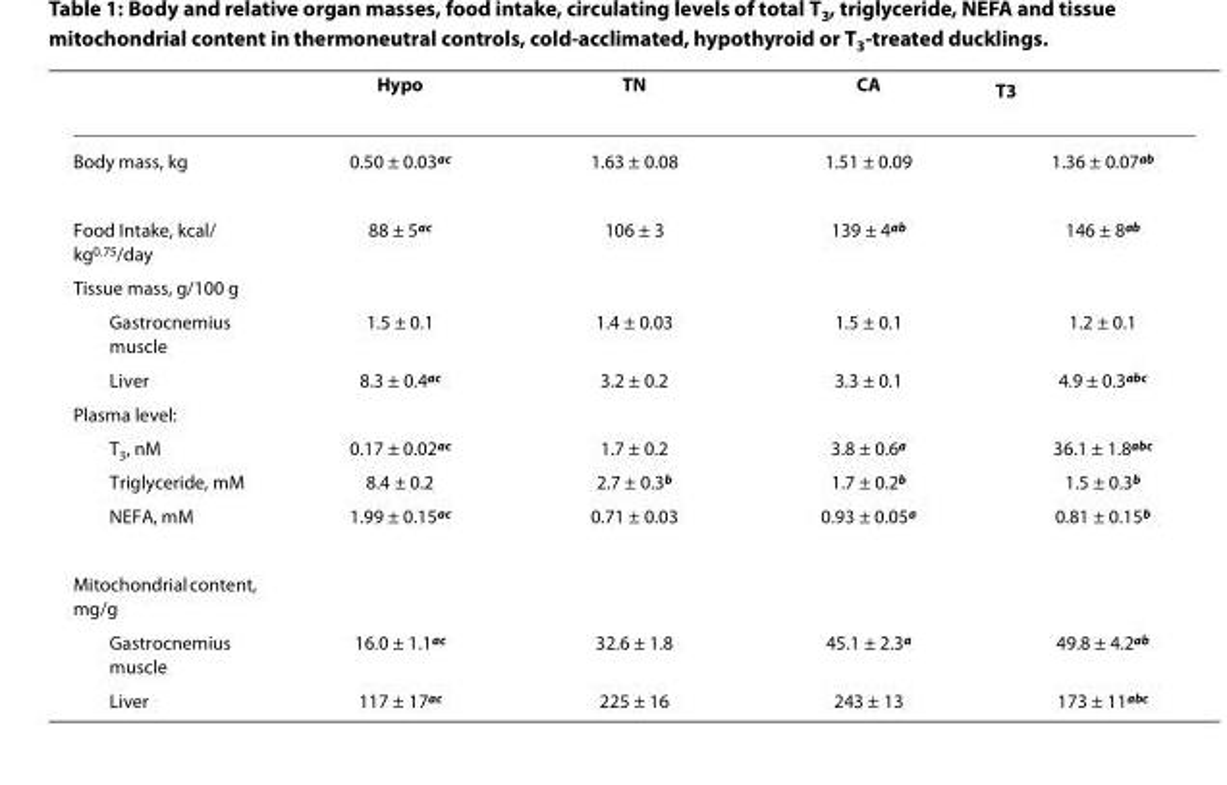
<table><thead><tr><td></td><td>Hypo</td><td>TN</td><td>CA</td><td>T<sub>3</sub></td></tr></thead><tbody><tr><td>Body mass, kg</td><td>0.50 ± 0.03<sup>ac</sup></td><td>1.63 ± 0.08</td><td>1.51 ± 0.09</td><td>1.36 ± 0.07<sup>ab</sup></td></tr><tr><td>Food Intake, kcal/ kg<sup>0.75</sup>/day</td><td>88 ± 5<sup>ac</sup></td><td>106 ± 3</td><td>139 ± 4<sup>ab</sup></td><td>146 ± 8<sup>ab</sup></td></tr><tr><td colspan="5">Tissue mass, g/100 g</td></tr><tr><td>Gastrocnemius muscle</td><td>1.5 ± 0.1</td><td>1.4 ± 0.03</td><td>1.5 ± 0.1</td><td>1.2 ± 0.1</td></tr><tr><td>Liver</td><td>8.3 ± 0.4<sup>ac</sup></td><td>3.2 ± 0.2</td><td>3.3 ± 0.1</td><td>4.9 ± 0.3<sup>abc</sup></td></tr><tr><td colspan="5">Plasma level:</td></tr><tr><td>T<sub>3</sub>, nM</td><td>0.17 ± 0.02<sup>ac</sup></td><td>1.7 ± 0.2</td><td>3.8 ± 0.6<sup>a</sup></td><td>36.1 ± 1.8<sup>abc</sup></td></tr><tr><td>Triglyceride, mM</td><td>8.4 ± 0.2</td><td>2.7 ± 0.3<sup>b</sup></td><td>1.7 ± 0.2<sup>b</sup></td><td>1.5 ± 0.3<sup>b</sup></td></tr><tr><td>NEFA, mM</td><td>1.99 ± 0.15<sup>ac</sup></td><td>0.71 ± 0.03</td><td>0.93 ± 0.05<sup>a</sup></td><td>0.81 ± 0.15<sup>b</sup></td></tr><tr><td colspan="5">Mitochondrial content, mg/g</td></tr><tr><td>Gastrocnemius muscle</td><td>16.0 ± 1.1<sup>ac</sup></td><td>32.6 ± 1.8</td><td>45.1 ± 2.3<sup>a</sup></td><td>49.8 ± 4.2<sup>ab</sup></td></tr><tr><td>Liver</td><td>117 ± 17<sup>ac</sup></td><td>225 ± 16</td><td>243 ± 13</td><td>173 ± 11<sup>abc</sup></td></tr></tbody></table>